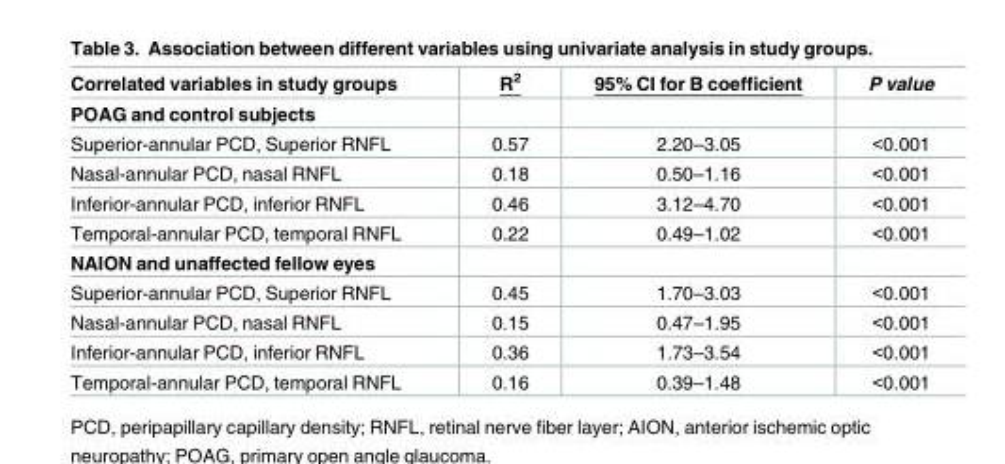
<table><thead><tr><td>Correlated variables in study groups</td><td>R<sup>2</sup></td><td>95% CI for B coefficient</td><td>P value</td></tr></thead><tbody><tr><td colspan="4">POAG and control subjects</td></tr><tr><td>Superior-annular PCD, Superior RNFL</td><td>0.57</td><td>2.20–3.05</td><td>&lt;0.001</td></tr><tr><td>Nasal-annular PCD, nasal RNFL</td><td>0.18</td><td>0.50–1.16</td><td>&lt;0.001</td></tr><tr><td>Inferior-annular PCD, inferior RNFL</td><td>0.46</td><td>3.12–4.70</td><td>&lt;0.001</td></tr><tr><td>Temporal-annular PCD, temporal RNFL</td><td>0.22</td><td>0.49–1.02</td><td>&lt;0.001</td></tr><tr><td colspan="4">NAION and unaffected fellow eyes</td></tr><tr><td>Superior-annular PCD, Superior RNFL</td><td>0.45</td><td>1.70–3.03</td><td>&lt;0.001</td></tr><tr><td>Nasal-annular PCD, nasal RNFL</td><td>0.15</td><td>0.47–1.95</td><td>&lt;0.001</td></tr><tr><td>Inferior-annular PCD, inferior RNFL</td><td>0.36</td><td>1.73–3.54</td><td>&lt;0.001</td></tr><tr><td>Temporal-annular PCD, temporal RNFL</td><td>0.16</td><td>0.39–1.48</td><td>&lt;0.001</td></tr></tbody></table>